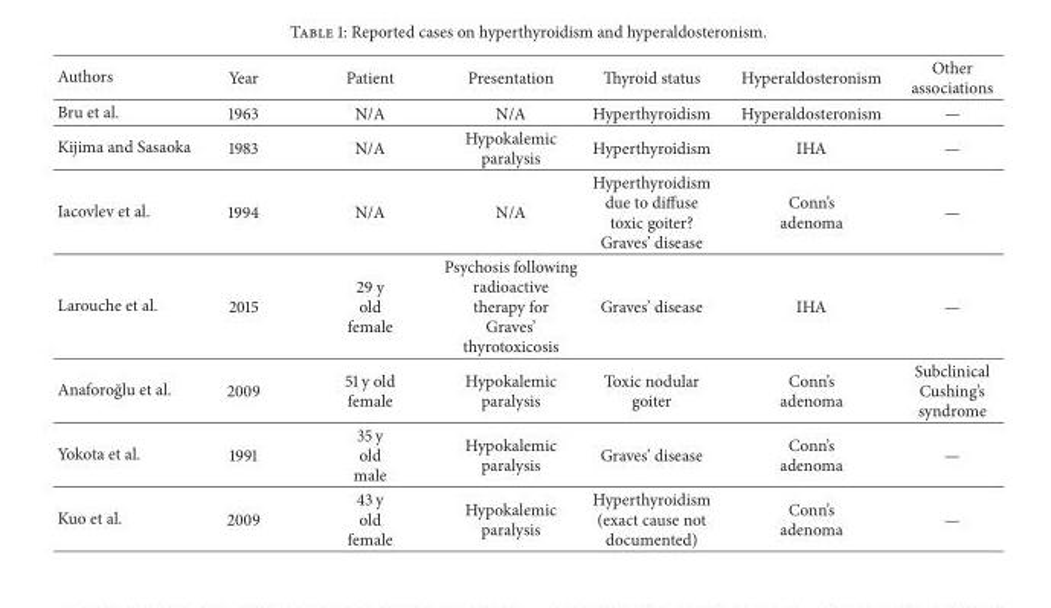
<table><thead><tr><td>Authors</td><td>Year</td><td>Patient</td><td>Presentation</td><td>Thyroid status</td><td>Hyperaldosteronism</td><td>Other associations</td></tr></thead><tbody><tr><td>Bru et al.</td><td>1963</td><td>N/A</td><td>N/A</td><td>Hyperthyroidism</td><td>Hyperaldosteronism</td><td>—</td></tr><tr><td>Kijima and Sasaoka</td><td>1983</td><td>N/A</td><td>Hypokalemic paralysis</td><td>Hyperthyroidism</td><td>IHA</td><td>—</td></tr><tr><td>Iacovlev et al.</td><td>1994</td><td>N/A</td><td>N/A</td><td>Hyperthyroidism due to diffuse toxic goiter? Graves’ disease</td><td>Conn’s adenoma</td><td>—</td></tr><tr><td>Larouche et al.</td><td>2015</td><td>29 y old female</td><td>Psychosis following radioactive therapy for Graves’ thyrotoxicosis</td><td>Graves’ disease</td><td>IHA</td><td>—</td></tr><tr><td>Anaforo˘glu et al.</td><td>2009</td><td>51 y old female</td><td>Hypokalemic paralysis</td><td>Toxic nodular goiter</td><td>Conn’s adenoma</td><td>Subclinical Cushing’s syndrome</td></tr><tr><td>Yokota et al.</td><td>1991</td><td>35 y old male</td><td>Hypokalemic paralysis</td><td>Graves’ disease</td><td>Conn’s adenoma</td><td>—</td></tr><tr><td>Kuo et al.</td><td>2009</td><td>43 y old female</td><td>Hypokalemic paralysis</td><td>Hyperthyroidism (exact cause not documented)</td><td>Conn’s adenoma</td><td>—</td></tr></tbody></table>